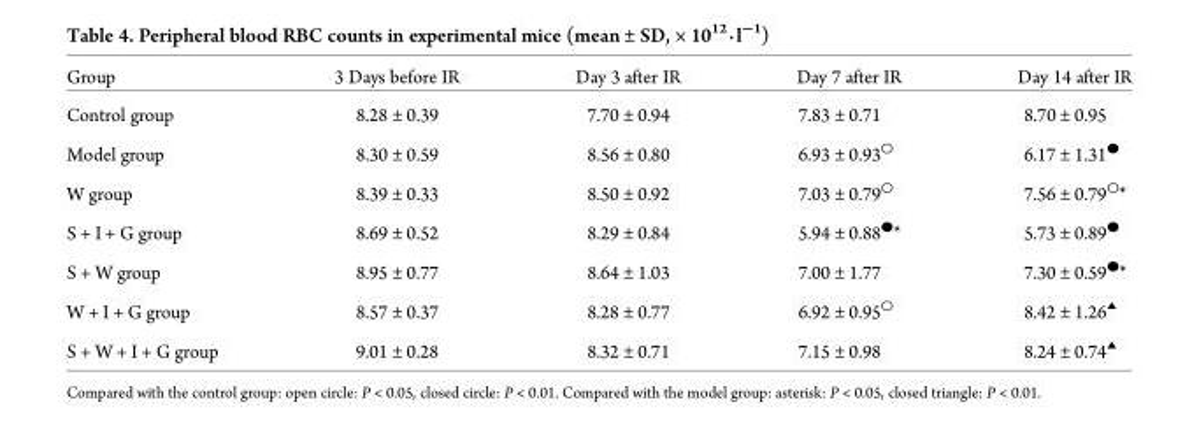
<table><thead><tr><td>Group</td><td>3 Days before IR</td><td>Day 3 after IR</td><td>Day 7 after IR</td><td>Day 14 after IR</td></tr></thead><tbody><tr><td>Control group</td><td>8.28 ± 0.39</td><td>7.70 ± 0.94</td><td>7.83 ± 0.71</td><td>8.70 ± 0.95</td></tr><tr><td>Model group</td><td>8.30 ± 0.59</td><td>8.56 ± 0.80</td><td>6.93 ± 0.93<sup>○</sup></td><td>6.17 ± 1.31<sup>●</sup></td></tr><tr><td>W group</td><td>8.39 ± 0.33</td><td>8.50 ± 0.92</td><td>7.03 ± 0.79<sup>○</sup></td><td>7.56 ± 0.79<sup>○</sup>*</td></tr><tr><td>S + I + G group</td><td>8.69 ± 0.52</td><td>8.29 ± 0.84</td><td>5.94 ± 0.88<sup>●</sup>*</td><td>5.73 ± 0.89<sup>●</sup></td></tr><tr><td>S + W group</td><td>8.95 ± 0.77</td><td>8.64 ± 1.03</td><td>7.00 ± 1.77</td><td>7.30 ± 0.59<sup>●</sup>*</td></tr><tr><td>W + I + G group</td><td>8.57 ± 0.37</td><td>8.28 ± 0.77</td><td>6.92 ± 0.95<sup>○</sup></td><td>8.42 ± 1.26▴</td></tr><tr><td>S + W + I + G group</td><td>9.01 ± 0.28</td><td>8.32 ± 0.71</td><td>7.15 ± 0.98</td><td>8.24 ± 0.74▴</td></tr></tbody></table>